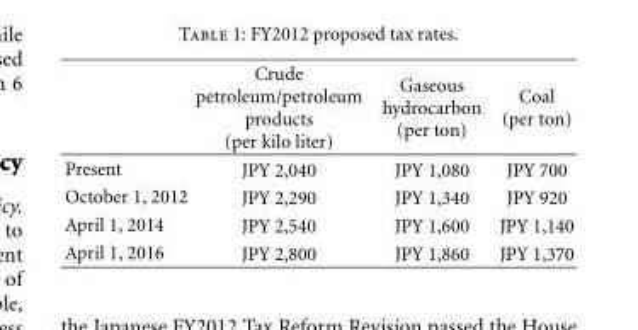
<table><thead><tr><td></td><td>Crude petroleum/petroleum products (per kilo liter)</td><td>Gaseous hydrocarbon (per ton)</td><td>Coal (per ton)</td></tr></thead><tbody><tr><td>Present</td><td>JPY 2,040</td><td>JPY 1,080</td><td>JPY 700</td></tr><tr><td>October 1, 2012</td><td>JPY 2,290</td><td>JPY 1,340</td><td>JPY 920</td></tr><tr><td>April 1, 2014</td><td>JPY 2,540</td><td>JPY 1,600</td><td>JPY 1,140</td></tr><tr><td>April 1, 2016</td><td>JPY 2,800</td><td>JPY 1,860</td><td>JPY 1,370</td></tr></tbody></table>